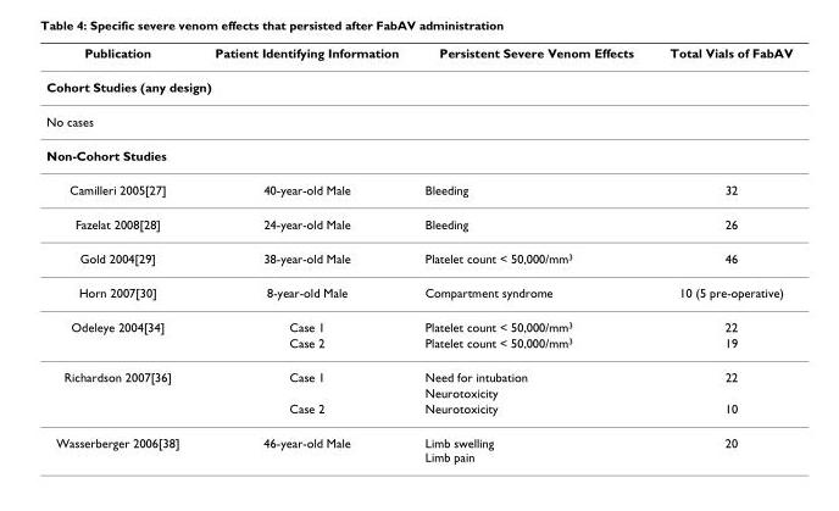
<table><thead><tr><td>Publication</td><td>Patient Identifying Information</td><td>Persistent Severe Venom Effects</td><td>Total Vials of FabAV</td></tr></thead><tbody><tr><td colspan="4">Cohort Studies (any design)</td></tr><tr><td colspan="4">No cases</td></tr><tr><td colspan="4">Non-Cohort Studies</td></tr><tr><td>Camilleri 2005[27]</td><td>40-year-old Male</td><td>Bleeding</td><td>32</td></tr><tr><td>Fazelat 2008[28]</td><td>24-year-old Male</td><td>Bleeding</td><td>26</td></tr><tr><td>Gold 2004[29]</td><td>38-year-old Male</td><td>Platelet count &lt; 50,000/mm<sup>3</sup></td><td>46</td></tr><tr><td>Horn 2007[30]</td><td>8-year-old Male</td><td>Compartment syndrome</td><td>10 (5 pre-operative)</td></tr><tr><td rowspan="2">Odeleye 2004[34]</td><td>Case 1</td><td>Platelet count &lt; 50,000/mm<sup>3</sup></td><td>22</td></tr><tr><td>Case 2</td><td>Platelet count &lt; 50,000/mm<sup>3</sup></td><td>19</td></tr><tr><td rowspan="3">Richardson 2007[36]</td><td>Case 1</td><td>Need for intubation</td><td>22</td></tr><tr><td></td><td>Neurotoxicity</td><td></td></tr><tr><td>Case 2</td><td>Neurotoxicity</td><td>10</td></tr><tr><td>Wasserberger 2006[38]</td><td>46-year-old Male</td><td>Limb swelling Limb pain</td><td>20</td></tr></tbody></table>